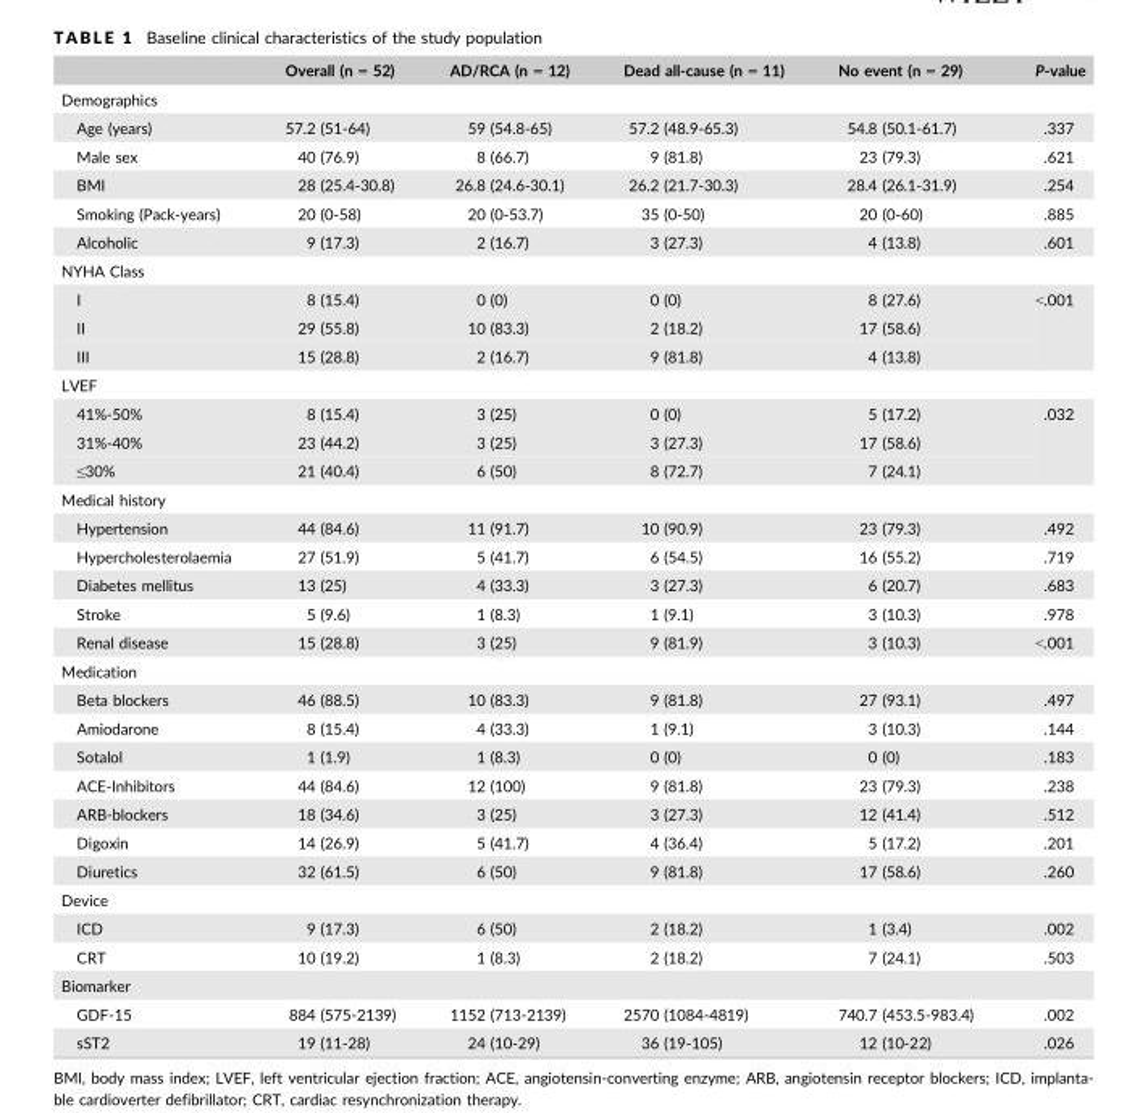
<table><thead><tr><td></td><td>Overall (n = 52)</td><td>AD/RCA (n = 12)</td><td>Dead all-cause (n = 11)</td><td>No event (n = 29)</td><td>P-value</td></tr></thead><tbody><tr><td colspan="6">Demographics</td></tr><tr><td>Age (years)</td><td>57.2 (51-64)</td><td>59 (54.8-65)</td><td>57.2 (48.9-65.3)</td><td>54.8 (50.1-61.7)</td><td>.337</td></tr><tr><td>Male sex</td><td>40 (76.9)</td><td>8 (66.7)</td><td>9 (81.8)</td><td>23 (79.3)</td><td>.621</td></tr><tr><td>BMI</td><td>28 (25.4-30.8)</td><td>26.8 (24.6-30.1)</td><td>26.2 (21.7-30.3)</td><td>28.4 (26.1-31.9)</td><td>.254</td></tr><tr><td>Smoking (Pack-years)</td><td>20 (0-58)</td><td>20 (0-53.7)</td><td>35 (0-50)</td><td>20 (0-60)</td><td>.885</td></tr><tr><td>Alcoholic</td><td>9 (17.3)</td><td>2 (16.7)</td><td>3 (27.3)</td><td>4 (13.8)</td><td>.601</td></tr><tr><td colspan="6">NYHA Class</td></tr><tr><td>I</td><td>8 (15.4)</td><td>0 (0)</td><td>0 (0)</td><td>8 (27.6)</td><td rowspan="3">&lt;.001</td></tr><tr><td>II</td><td>29 (55.8)</td><td>10 (83.3)</td><td>2 (18.2)</td><td>17 (58.6)</td></tr><tr><td>III</td><td>15 (28.8)</td><td>2 (16.7)</td><td>9 (81.8)</td><td>4 (13.8)</td></tr><tr><td colspan="6">LVEF</td></tr><tr><td>41%-50%</td><td>8 (15.4)</td><td>3 (25)</td><td>0 (0)</td><td>5 (17.2)</td><td rowspan="3">.032</td></tr><tr><td>31%-40%</td><td>23 (44.2)</td><td>3 (25)</td><td>3 (27.3)</td><td>17 (58.6)</td></tr><tr><td>≤30%</td><td>21 (40.4)</td><td>6 (50)</td><td>8 (72.7)</td><td>7 (24.1)</td></tr><tr><td colspan="6">Medical history</td></tr><tr><td>Hypertension</td><td>44 (84.6)</td><td>11 (91.7)</td><td>10 (90.9)</td><td>23 (79.3)</td><td>.492</td></tr><tr><td>Hypercholesterolaemia</td><td>27 (51.9)</td><td>5 (41.7)</td><td>6 (54.5)</td><td>16 (55.2)</td><td>.719</td></tr><tr><td>Diabetes mellitus</td><td>13 (25)</td><td>4 (33.3)</td><td>3 (27.3)</td><td>6 (20.7)</td><td>.683</td></tr><tr><td>Stroke</td><td>5 (9.6)</td><td>1 (8.3)</td><td>1 (9.1)</td><td>3 (10.3)</td><td>.978</td></tr><tr><td>Renal disease</td><td>15 (28.8)</td><td>3 (25)</td><td>9 (81.9)</td><td>3 (10.3)</td><td>&lt;.001</td></tr><tr><td colspan="6">Medication</td></tr><tr><td>Beta blockers</td><td>46 (88.5)</td><td>10 (83.3)</td><td>9 (81.8)</td><td>27 (93.1)</td><td>.497</td></tr><tr><td>Amiodarone</td><td>8 (15.4)</td><td>4 (33.3)</td><td>1 (9.1)</td><td>3 (10.3)</td><td>.144</td></tr><tr><td>Sotalol</td><td>1 (1.9)</td><td>1 (8.3)</td><td>0 (0)</td><td>0 (0)</td><td>.183</td></tr><tr><td>ACE-Inhibitors</td><td>44 (84.6)</td><td>12 (100)</td><td>9 (81.8)</td><td>23 (79.3)</td><td>.238</td></tr><tr><td>ARB-blockers</td><td>18 (34.6)</td><td>3 (25)</td><td>3 (27.3)</td><td>12 (41.4)</td><td>.512</td></tr><tr><td>Digoxin</td><td>14 (26.9)</td><td>5 (41.7)</td><td>4 (36.4)</td><td>5 (17.2)</td><td>.201</td></tr><tr><td>Diuretics</td><td>32 (61.5)</td><td>6 (50)</td><td>9 (81.8)</td><td>17 (58.6)</td><td>.260</td></tr><tr><td colspan="6">Device</td></tr><tr><td>ICD</td><td>9 (17.3)</td><td>6 (50)</td><td>2 (18.2)</td><td>1 (3.4)</td><td>.002</td></tr><tr><td>CRT</td><td>10 (19.2)</td><td>1 (8.3)</td><td>2 (18.2)</td><td>7 (24.1)</td><td>.503</td></tr><tr><td colspan="6">Biomarker</td></tr><tr><td>GDF-15</td><td>884 (575-2139)</td><td>1152 (713-2139)</td><td>2570 (1084-4819)</td><td>740.7 (453.5-983.4)</td><td>.002</td></tr><tr><td>sST2</td><td>19 (11-28)</td><td>24 (10-29)</td><td>36 (19-105)</td><td>12 (10-22)</td><td>.026</td></tr></tbody></table>